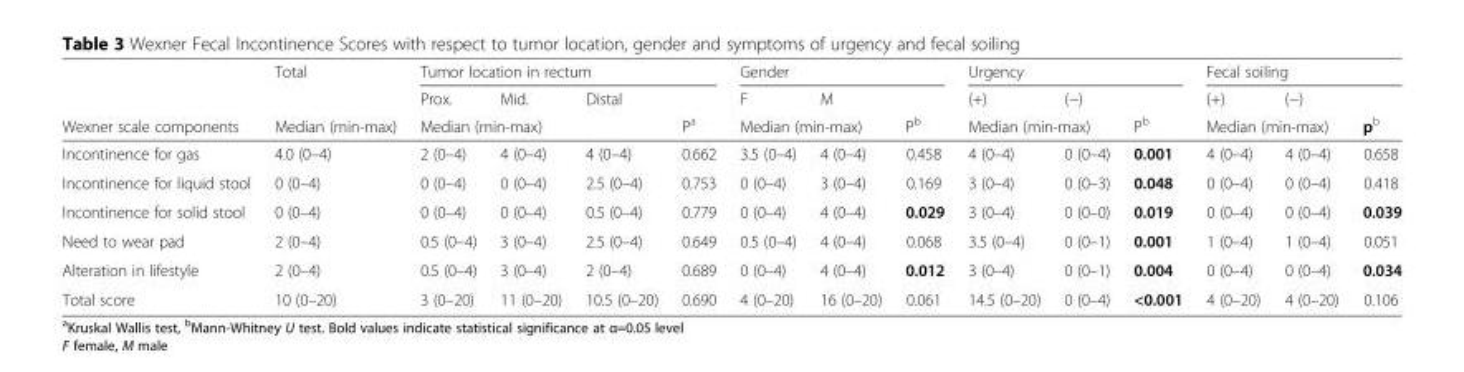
<table><thead><tr><td rowspan="3">Wexner scale components</td><td rowspan="3">Total Median (min-max)</td><td colspan="4">Tumor location in rectum</td><td colspan="3">Gender</td><td colspan="3">Urgency</td><td colspan="3">Fecal soiling</td></tr><tr><td>Prox.</td><td>Mid.</td><td>Distal</td><td rowspan="2">P<sup>a</sup></td><td>F</td><td>M</td><td rowspan="2">Pb</td><td>(+)</td><td>(−)</td><td rowspan="2">Pb</td><td>(+)</td><td>(−)</td><td rowspan="2">pb</td></tr><tr><td colspan="3">Median (min-max)</td><td colspan="2">Median (min-max)</td><td colspan="2">Median (min-max)</td><td colspan="2">Median (min-max)</td></tr></thead><tbody><tr><td>Incontinence for gas</td><td>4.0 (0–4)</td><td>2 (0–4)</td><td>4 (0–4)</td><td>4 (0–4)</td><td>0.662</td><td>3.5 (0–4)</td><td>4 (0–4)</td><td>0.458</td><td>4 (0–4)</td><td>0 (0–4)</td><td>0.001</td><td>4 (0–4)</td><td>4 (0–4)</td><td>0.658</td></tr><tr><td>Incontinence for liquid stool</td><td>0 (0–4)</td><td>0 (0–4)</td><td>0 (0–4)</td><td>2.5 (0–4)</td><td>0.753</td><td>0 (0–4)</td><td>3 (0–4)</td><td>0.169</td><td>3 (0–4)</td><td>0 (0–3)</td><td>0.048</td><td>0 (0–4)</td><td>0 (0–4)</td><td>0.418</td></tr><tr><td>Incontinence for solid stool</td><td>0 (0–4)</td><td>0 (0–4)</td><td>0 (0–4)</td><td>0.5 (0–4)</td><td>0.779</td><td>0 (0–4)</td><td>4 (0–4)</td><td>0.029</td><td>3 (0–4)</td><td>0 (0–0)</td><td>0.019</td><td>0 (0–4)</td><td>0 (0–4)</td><td>0.039</td></tr><tr><td>Need to wear pad</td><td>2 (0–4)</td><td>0.5 (0–4)</td><td>3 (0–4)</td><td>2.5 (0–4)</td><td>0.649</td><td>0.5 (0–4)</td><td>4 (0–4)</td><td>0.068</td><td>3.5 (0–4)</td><td>0 (0–1)</td><td>0.001</td><td>1 (0–4)</td><td>1 (0–4)</td><td>0.051</td></tr><tr><td>Alteration in lifestyle</td><td>2 (0–4)</td><td>0.5 (0–4)</td><td>3 (0–4)</td><td>2 (0–4)</td><td>0.689</td><td>0 (0–4)</td><td>4 (0–4)</td><td>0.012</td><td>3 (0–4)</td><td>0 (0–1)</td><td>0.004</td><td>0 (0–4)</td><td>0 (0–4)</td><td>0.034</td></tr><tr><td>Total score</td><td>10 (0–20)</td><td>3 (0–20)</td><td>11 (0–20)</td><td>10.5 (0–20)</td><td>0.690</td><td>4 (0–20)</td><td>16 (0–20)</td><td>0.061</td><td>14.5 (0–20)</td><td>0 (0–4)</td><td>&lt;0.001</td><td>4 (0–20)</td><td>4 (0–20)</td><td>0.106</td></tr></tbody></table>